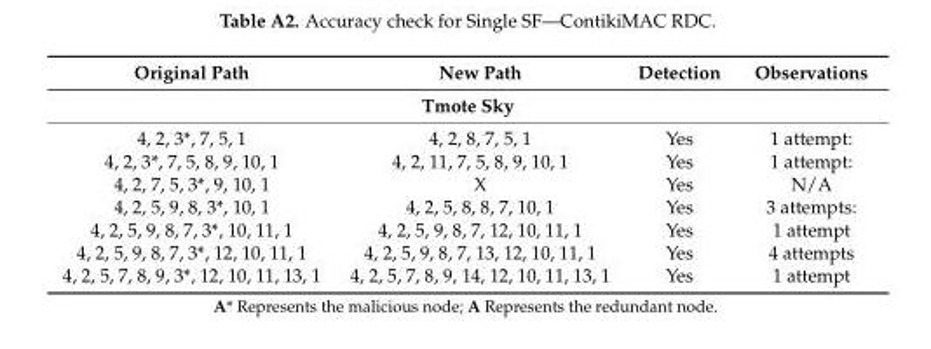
<table><thead><tr><td>Original Path</td><td>New Path</td><td>Detection</td><td>Observations</td></tr></thead><tbody><tr><td colspan="4">Tmote Sky</td></tr><tr><td>4, 2, 3*, 7, 5, 1</td><td>4, 2, 8, 7, 5, 1</td><td>Yes</td><td>1 attempt:</td></tr><tr><td>4, 2, 3*, 7, 5, 8, 9, 10, 1</td><td>4, 2, 11, 7, 5, 8, 9, 10, 1</td><td>Yes</td><td>1 attempt:</td></tr><tr><td>4, 2, 7, 5, 3*, 9, 10, 1</td><td>X</td><td>Yes</td><td>N/A</td></tr><tr><td>4, 2, 5, 9, 8, 3*, 10, 1</td><td>4, 2, 5, 8, 8, 7, 10, 1</td><td>Yes</td><td>3 attempts:</td></tr><tr><td>4, 2, 5, 9, 8, 7, 3*, 10, 11, 1</td><td>4, 2, 5, 9, 8, 7, 12, 10, 11, 1</td><td>Yes</td><td>1 attempt</td></tr><tr><td>4, 2, 5, 9, 8, 7, 3*, 12, 10, 11, 1</td><td>4, 2, 5, 9, 8, 7, 13, 12, 10, 11, 1</td><td>Yes</td><td>4 attempts</td></tr><tr><td>4, 2, 5, 7, 8, 9, 3*, 12, 10, 11, 13, 1</td><td>4, 2, 5, 7, 8, 9, 14, 12, 10, 11, 13, 1</td><td>Yes</td><td>1 attempt</td></tr></tbody></table>